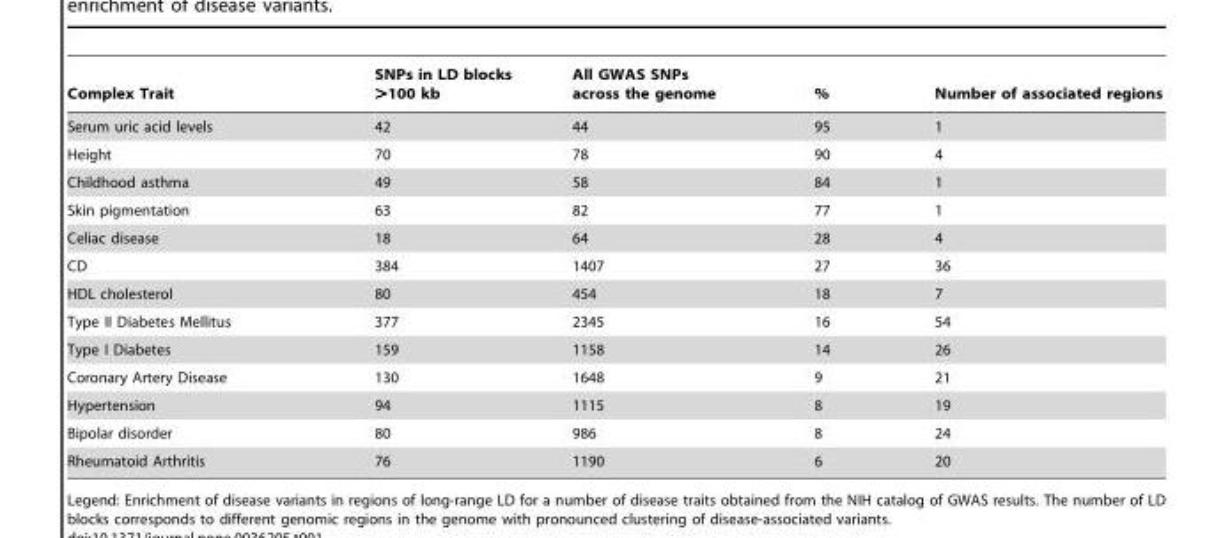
<table><thead><tr><td>Complex Trait</td><td>SNPs in LD blocks &gt;100 kb</td><td>All GWAS SNPs across the genome</td><td>%</td><td>Number of associated regions</td></tr></thead><tbody><tr><td>Serum uric acid levels</td><td>42</td><td>44</td><td>95</td><td>1</td></tr><tr><td>Height</td><td>70</td><td>78</td><td>90</td><td>4</td></tr><tr><td>Childhood asthma</td><td>49</td><td>58</td><td>84</td><td>1</td></tr><tr><td>Skin pigmentation</td><td>63</td><td>82</td><td>77</td><td>1</td></tr><tr><td>Celiac disease</td><td>18</td><td>64</td><td>28</td><td>4</td></tr><tr><td>CD</td><td>384</td><td>1407</td><td>27</td><td>36</td></tr><tr><td>HDL cholesterol</td><td>80</td><td>454</td><td>18</td><td>7</td></tr><tr><td>Type II Diabetes Mellitus</td><td>377</td><td>2345</td><td>16</td><td>54</td></tr><tr><td>Type I Diabetes</td><td>159</td><td>1158</td><td>14</td><td>26</td></tr><tr><td>Coronary Artery Disease</td><td>130</td><td>1648</td><td>9</td><td>21</td></tr><tr><td>Hypertension</td><td>94</td><td>1115</td><td>8</td><td>19</td></tr><tr><td>Bipolar disorder</td><td>80</td><td>986</td><td>8</td><td>24</td></tr><tr><td>Rheumatoid Arthritis</td><td>76</td><td>1190</td><td>6</td><td>20</td></tr></tbody></table>